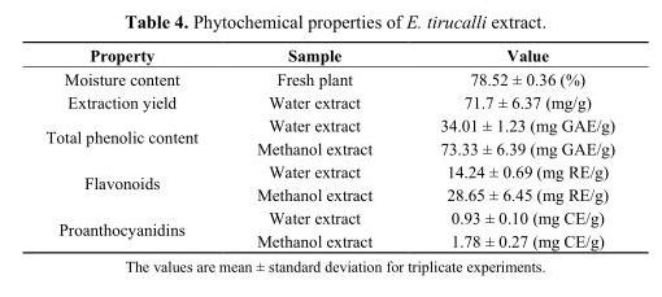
<table><thead><tr><td>Property</td><td>Sample</td><td>Value</td></tr></thead><tbody><tr><td>Moisture content</td><td>Fresh plant</td><td>78.52 ± 0.36 (%)</td></tr><tr><td>Extraction yield</td><td>Water extract</td><td>71.7 ± 6.37 (mg/g)</td></tr><tr><td rowspan="2">Total phenolic content</td><td>Water extract</td><td>34.01 ± 1.23 (mg GAE/g)</td></tr><tr><td>Methanol extract</td><td>73.33 ± 6.39 (mg GAE/g)</td></tr><tr><td rowspan="2">Flavonoids</td><td>Water extract</td><td>14.24 ± 0.69 (mg RE/g)</td></tr><tr><td>Methanol extract</td><td>28.65 ± 6.45 (mg RE/g)</td></tr><tr><td rowspan="2">Proanthocyanidins</td><td>Water extract</td><td>0.93 ± 0.10 (mg CE/g)</td></tr><tr><td>Methanol extract</td><td>1.78 ± 0.27 (mg CE/g)</td></tr></tbody></table>